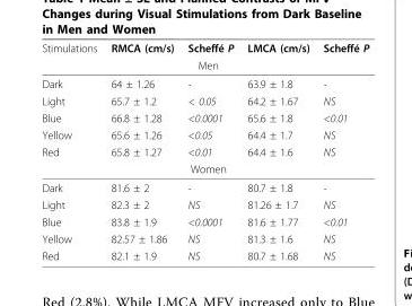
<table><thead><tr><td>Stimulations</td><td>RMCA (cm/s)</td><td>Scheffé P</td><td>LMCA (cm/s)</td><td>Scheffé P</td></tr><tr><td colspan="5">Men</td></tr></thead><tbody><tr><td>Dark</td><td>64 ± 1.26</td><td>-</td><td>63.9 ± 1.8</td><td>-</td></tr><tr><td>Light</td><td>65.7 ± 1.2</td><td>&lt; 0.05</td><td>64.2 ± 1.67</td><td>NS</td></tr><tr><td>Blue</td><td>66.8 ± 1.28</td><td>&lt;0.0001</td><td>65.6 ± 1.8</td><td>&lt;0.01</td></tr><tr><td>Yellow</td><td>65.6 ± 1.26</td><td>&lt;0.05</td><td>64.4 ± 1.7</td><td>NS</td></tr><tr><td>Red</td><td>65.8 ± 1.27</td><td>&lt;0.01</td><td>64.4 ± 1.6</td><td>NS</td></tr><tr><td colspan="5">Women</td></tr><tr><td>Dark</td><td>81.6 ± 2</td><td>-</td><td>80.7 ± 1.8</td><td>-</td></tr><tr><td>Light</td><td>82.3 ± 2</td><td>NS</td><td>81.26 ± 1.7</td><td>NS</td></tr><tr><td>Blue</td><td>83.8 ± 1.9</td><td>&lt;0.0001</td><td>81.6 ± 1.77</td><td>&lt;0.01</td></tr><tr><td>Yellow</td><td>82.57 ± 1.86</td><td>NS</td><td>81.3 ± 1.6</td><td>NS</td></tr><tr><td>Red</td><td>82.1 ± 1.9</td><td>NS</td><td>80.7 ± 1.68</td><td>NS</td></tr></tbody></table>